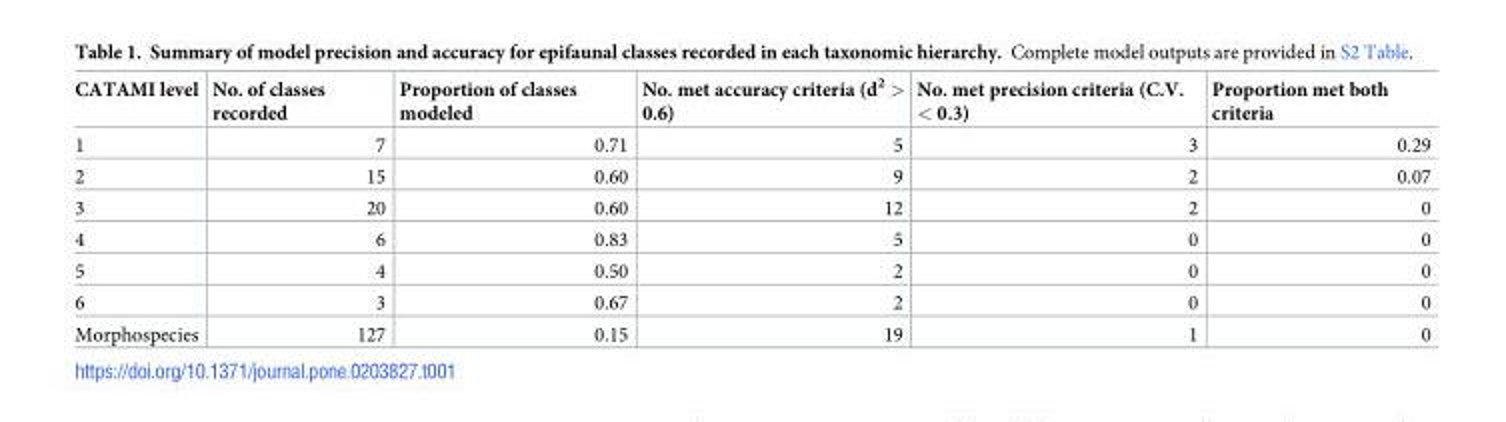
<table><thead><tr><td>CATAMI level</td><td>No. of classes recorded</td><td>Proportion of classes modeled</td><td>No. met accuracy criteria (d<sup>2</sup> &gt; 0.6)</td><td>No. met precision criteria (C.V. &lt; 0.3)</td><td>Proportion met both criteria</td></tr></thead><tbody><tr><td>1</td><td>7</td><td>0.71</td><td>5</td><td>3</td><td>0.29</td></tr><tr><td>2</td><td>15</td><td>0.60</td><td>9</td><td>2</td><td>0.07</td></tr><tr><td>3</td><td>20</td><td>0.60</td><td>12</td><td>2</td><td>0</td></tr><tr><td>4</td><td>6</td><td>0.83</td><td>5</td><td>0</td><td>0</td></tr><tr><td>5</td><td>4</td><td>0.50</td><td>2</td><td>0</td><td>0</td></tr><tr><td>6</td><td>3</td><td>0.67</td><td>2</td><td>0</td><td>0</td></tr><tr><td>Morphospecies</td><td>127</td><td>0.15</td><td>19</td><td>1</td><td>0</td></tr></tbody></table>